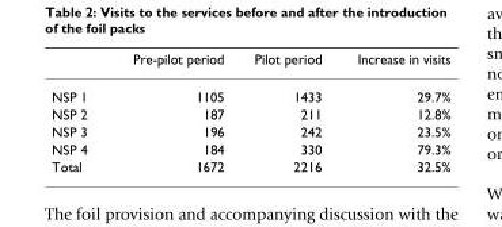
<table><thead><tr><td></td><td>Pre-pilot period</td><td>Pilot period</td><td>Increase in visits</td></tr></thead><tbody><tr><td>NSP 1</td><td>1105</td><td>1433</td><td>29.7%</td></tr><tr><td>NSP 2</td><td>187</td><td>211</td><td>12.8%</td></tr><tr><td>NSP 3</td><td>196</td><td>242</td><td>23.5%</td></tr><tr><td>NSP 4</td><td>184</td><td>330</td><td>79.3%</td></tr><tr><td>Total</td><td>1672</td><td>2216</td><td>32.5%</td></tr></tbody></table>